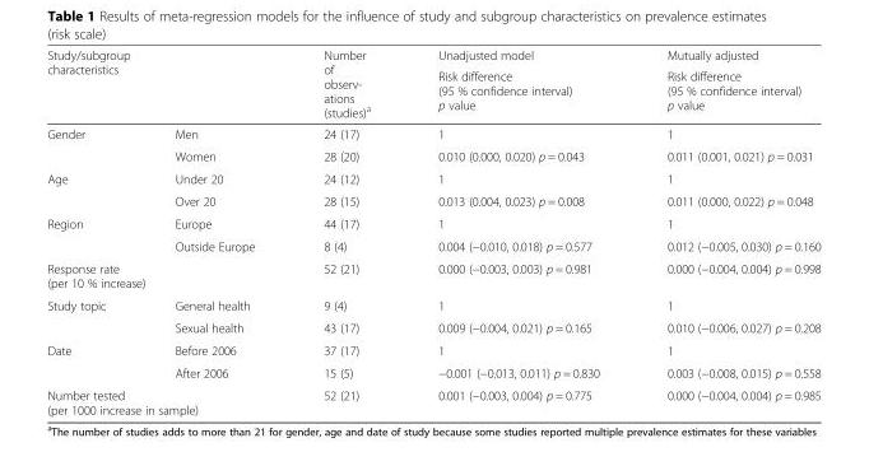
<table><thead><tr><td rowspan="2" colspan="2">Study/subgroup characteristics</td><td rowspan="3">Number of observ- ations (studies)<sup>a</sup> 24 (17)</td><td rowspan="3">Unadjusted model Risk difference (95 % confidence interval) p value 1</td><td rowspan="3">Mutually adjusted Risk difference (95 % confidence interval) p value 1</td></tr><tr></tr><tr><td>Gender</td><td>Men</td></tr></thead><tbody><tr><td></td><td>Women</td><td>28 (20)</td><td>0.010 (0.000, 0.020) p = 0.043</td><td>0.011 (0.001, 0.021) p = 0.031</td></tr><tr><td rowspan="2">Age</td><td>Under 20</td><td>24 (12)</td><td>1</td><td>1</td></tr><tr><td>Over 20</td><td>28 (15)</td><td>0.013 (0.004, 0.023) p = 0.008</td><td>0.011 (0.000, 0.022) p = 0.048</td></tr><tr><td rowspan="2">Region</td><td>Europe</td><td>44 (17)</td><td>1</td><td>1</td></tr><tr><td>Outside Europe</td><td>8 (4)</td><td>0.004 (−0.010, 0.018) p = 0.577</td><td>0.012 (−0.005, 0.030) p = 0.160</td></tr><tr><td colspan="2">Response rate (per 10 % increase)</td><td>52 (21)</td><td>0.000 (−0.003, 0.003) p = 0.981</td><td>0.000 (−0.004, 0.004) p = 0.998</td></tr><tr><td rowspan="2">Study topic</td><td>General health</td><td>9 (4)</td><td>1</td><td>1</td></tr><tr><td>Sexual health</td><td>43 (17)</td><td>0.009 (−0.004, 0.021) p = 0.165</td><td>0.010 (−0.006, 0.027) p = 0.208</td></tr><tr><td rowspan="2">Date</td><td>Before 2006</td><td>37 (17)</td><td>1</td><td>1</td></tr><tr><td>After 2006</td><td>15 (5)</td><td>−0.001 (−0.013, 0.011) p = 0.830</td><td>0.003 (−0.008, 0.015) p = 0.558</td></tr><tr><td colspan="2">Number tested (per 1000 increase in sample)</td><td>52 (21)</td><td>0.001 (−0.003, 0.004) p = 0.775</td><td>0.000 (−0.004, 0.004) p = 0.985</td></tr></tbody></table>